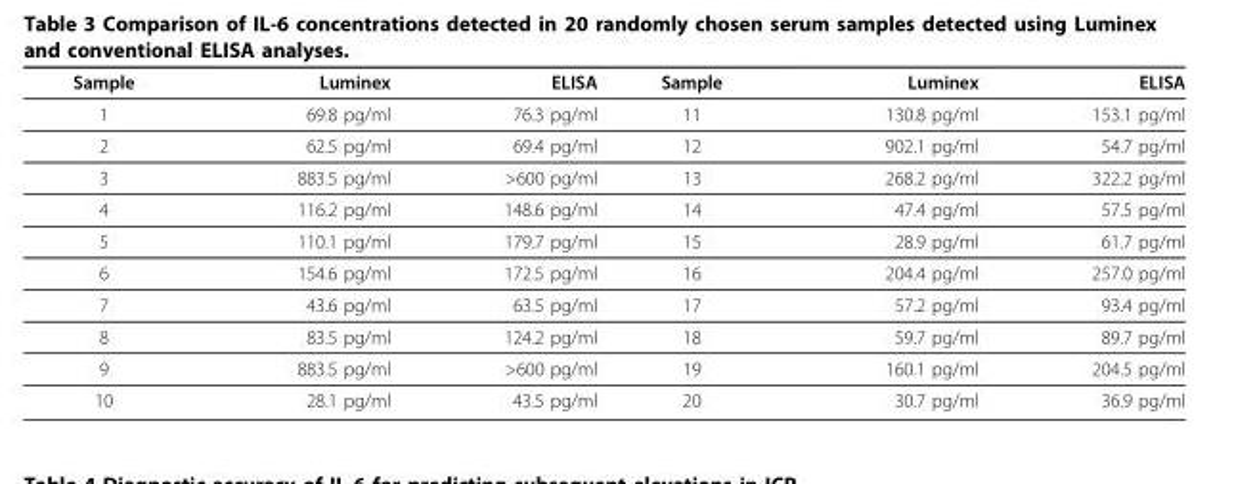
<table><thead><tr><td>Sample</td><td>Luminex</td><td>ELISA</td><td>Sample</td><td>Luminex</td><td>ELISA</td></tr></thead><tbody><tr><td>1</td><td>69.8 pg/ml</td><td>76.3 pg/ml</td><td>11</td><td>130.8 pg/ml</td><td>153.1 pg/ml</td></tr><tr><td>2</td><td>62.5 pg/ml</td><td>69.4 pg/ml</td><td>12</td><td>902.1 pg/ml</td><td>54.7 pg/ml</td></tr><tr><td>3</td><td>883.5 pg/ml</td><td>&gt;600 pg/ml</td><td>13</td><td>268.2 pg/ml</td><td>322.2 pg/ml</td></tr><tr><td>4</td><td>116.2 pg/ml</td><td>148.6 pg/ml</td><td>14</td><td>47.4 pg/ml</td><td>57.5 pg/ml</td></tr><tr><td>5</td><td>110.1 pg/ml</td><td>179.7 pg/ml</td><td>15</td><td>28.9 pg/ml</td><td>61.7 pg/ml</td></tr><tr><td>6</td><td>154.6 pg/ml</td><td>172.5 pg/ml</td><td>16</td><td>204.4 pg/ml</td><td>257.0 pg/ml</td></tr><tr><td>7</td><td>43.6 pg/ml</td><td>63.5 pg/ml</td><td>17</td><td>57.2 pg/ml</td><td>93.4 pg/ml</td></tr><tr><td>8</td><td>83.5 pg/ml</td><td>124.2 pg/ml</td><td>18</td><td>59.7 pg/ml</td><td>89.7 pg/ml</td></tr><tr><td>9</td><td>883.5 pg/ml</td><td>&gt;600 pg/ml</td><td>19</td><td>160.1 pg/ml</td><td>204.5 pg/ml</td></tr><tr><td>10</td><td>28.1 pg/ml</td><td>43.5 pg/ml</td><td>20</td><td>30.7 pg/ml</td><td>36.9 pg/ml</td></tr></tbody></table>